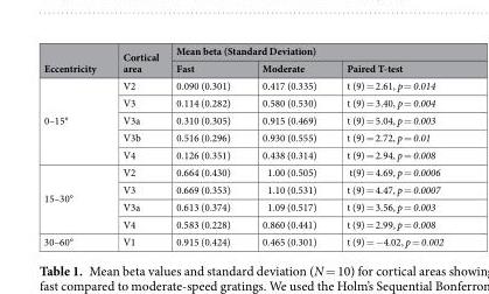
<table><thead><tr><td rowspan="2">Eccentricity</td><td rowspan="2">Cortical area</td><td colspan="3">Mean beta (Standard Deviation)</td></tr><tr><td>Fast</td><td>Moderate</td><td>Paired T-test</td></tr></thead><tbody><tr><td rowspan="5">0–15°</td><td>V2</td><td>0.090 (0.301)</td><td>0.417 (0.335)</td><td>t (9) = 2.61, p = 0.014</td></tr><tr><td>V3</td><td>0.114 (0.282)</td><td>0.580 (0.530)</td><td>t (9) = 3.40, p = 0.004</td></tr><tr><td>V3a</td><td>0.310 (0.305)</td><td>0.915 (0.469)</td><td>t (9) = 5.04, p = 0.003</td></tr><tr><td>V3b</td><td>0.516 (0.296)</td><td>0.930 (0.555)</td><td>t (9) = 2.72, p = 0.01</td></tr><tr><td>V4</td><td>0.126 (0.351)</td><td>0.438 (0.314)</td><td>t (9) = 2.94, p = 0.008</td></tr><tr><td rowspan="4">15–30°</td><td>V2</td><td>0.664 (0.430)</td><td>1.00 (0.505)</td><td>t(9) = 4.69, p = 0.0006</td></tr><tr><td>V3</td><td>0.669 (0.353)</td><td>1.10 (0.531)</td><td>t (9) = 4.47, p = 0.0007</td></tr><tr><td>V3a</td><td>0.613 (0.374)</td><td>1.09 (0.517)</td><td>t (9) = 3.56, p = 0.003</td></tr><tr><td>V4</td><td>0.583 (0.228)</td><td>0.860 (0.441)</td><td>t (9) = 2.99, p = 0.008</td></tr><tr><td>30–60°</td><td>V1</td><td>0.915 (0.424)</td><td>0.465 (0.301)</td><td>t (9) = −4.02, p = 0.002</td></tr></tbody></table>